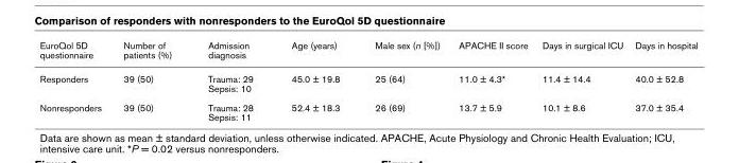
<table><thead><tr><td>EuroQol 5D questionnaire</td><td>Number of patients (%)</td><td>Admission diagnosis</td><td>Age (years)</td><td>Male sex (n [%])</td><td>APACHE II score</td><td>Days in surgical ICU</td><td>Days in hospital</td></tr></thead><tbody><tr><td>Responders</td><td>39 (50)</td><td>Trauma: 29 Sepsis: 10</td><td>45.0 ± 19.8</td><td>25 (64)</td><td>11.0 ± 4.3*</td><td>11.4 ± 14.4</td><td>40.0 ± 52.8</td></tr><tr><td>Nonresponders</td><td>39 (50)</td><td>Trauma: 28 Sepsis: 11</td><td>52.4 ± 18.3</td><td>26 (69)</td><td>13.7 ± 5.9</td><td>10.1 ± 8.6</td><td>37.0 ± 35.4</td></tr></tbody></table>